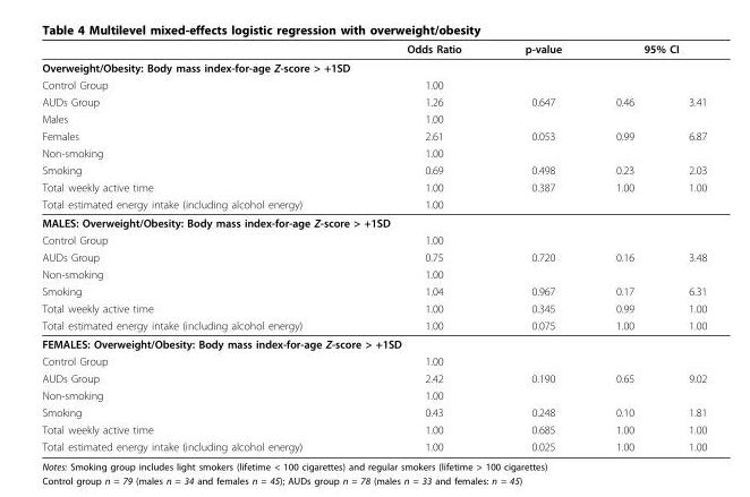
<table><thead><tr><td></td><td>Odds Ratio</td><td rowspan="2">p-value</td><td colspan="2">95% CI</td></tr><tr><td colspan="2">Overweight/Obesity: Body mass index-for-age Z-score &gt; +1SD</td><td></td><td></td></tr></thead><tbody><tr><td>Control Group</td><td>1.00</td><td></td><td></td><td></td></tr><tr><td>AUDs Group</td><td>1.26</td><td>0.647</td><td>0.46</td><td>3.41</td></tr><tr><td>Males</td><td>1.00</td><td></td><td></td><td></td></tr><tr><td>Females</td><td>2.61</td><td>0.053</td><td>0.99</td><td>6.87</td></tr><tr><td>Non-smoking</td><td>1.00</td><td></td><td></td><td></td></tr><tr><td>Smoking</td><td>0.69</td><td>0.498</td><td>0.23</td><td>2.03</td></tr><tr><td>Total weekly active time</td><td>1.00</td><td>0.387</td><td>1.00</td><td>1.00</td></tr><tr><td>Total estimated energy intake (including alcohol energy)</td><td>1.00</td><td></td><td></td><td></td></tr><tr><td colspan="5">MALES: Overweight/Obesity: Body mass index-for-age Z-score &gt; +1SD</td></tr><tr><td>Control Group</td><td>1.00</td><td></td><td></td><td></td></tr><tr><td>AUDs Group</td><td>0.75</td><td>0.720</td><td>0.16</td><td>3.48</td></tr><tr><td>Non-smoking</td><td>1.00</td><td></td><td></td><td></td></tr><tr><td>Smoking</td><td>1.04</td><td>0.967</td><td>0.17</td><td>6.31</td></tr><tr><td>Total weekly active time</td><td>1.00</td><td>0.345</td><td>0.99</td><td>1.00</td></tr><tr><td>Total estimated energy intake (including alcohol energy)</td><td>1.00</td><td>0.075</td><td>1.00</td><td>1.00</td></tr><tr><td colspan="5">FEMALES: Overweight/Obesity: Body mass index-for-age Z-score &gt; +1SD</td></tr><tr><td>Control Group</td><td>1.00</td><td></td><td></td><td></td></tr><tr><td>AUDs Group</td><td>2.42</td><td>0.190</td><td>0.65</td><td>9.02</td></tr><tr><td>Non-smoking</td><td>1.00</td><td></td><td></td><td></td></tr><tr><td>Smoking</td><td>0.43</td><td>0.248</td><td>0.10</td><td>1.81</td></tr><tr><td>Total weekly active time</td><td>1.00</td><td>0.685</td><td>1.00</td><td>1.00</td></tr><tr><td>Total estimated energy intake (including alcohol energy)</td><td>1.00</td><td>0.025</td><td>1.00</td><td>1.00</td></tr></tbody></table>